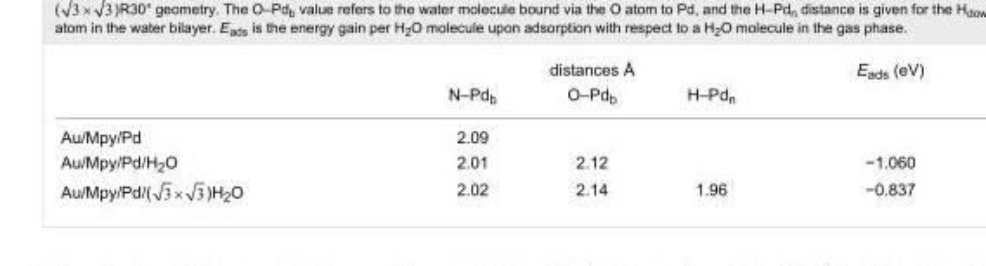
<table><thead><tr><td rowspan="2"></td><td colspan="3">distances Å</td><td rowspan="2">E<sub>ads</sub> (eV)</td></tr><tr><td>N–Pd<sub>b</sub></td><td>O–Pd<sub>b</sub></td><td>H–Pd<sub>n</sub></td></tr></thead><tbody><tr><td>Au/Mpy/Pd</td><td>2.09</td><td></td><td></td><td></td></tr><tr><td>Au/Mpy/Pd/H<sub>2</sub>O</td><td>2.01</td><td>2.12</td><td></td><td>−1.060</td></tr><tr><td>Au/Mpy/Pd/( )H<sub>2</sub>O</td><td>2.02</td><td>2.14</td><td>1.96</td><td>−0.837</td></tr></tbody></table>